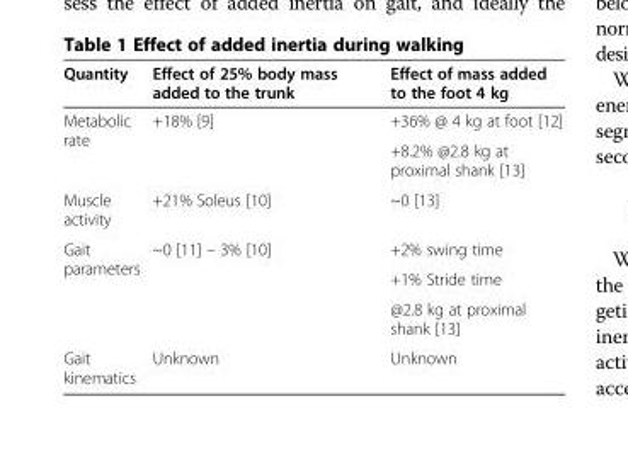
<table><thead><tr><td>Quantity</td><td>Effect of 25% body mass added to the trunk</td><td>Effect of mass added to the foot 4 kg</td></tr></thead><tbody><tr><td rowspan="2">Metabolic rate</td><td rowspan="2">+18% [9]</td><td>+36% @ 4 kg at foot [12]</td></tr><tr><td>+8.2% @2.8 kg at proximal shank [13]</td></tr><tr><td>Muscle activity</td><td>+21% Soleus [10]</td><td>~0 [13]</td></tr><tr><td rowspan="3">Gait parameters</td><td rowspan="3">~0 [11] – 3% [10]</td><td>+2% swing time</td></tr><tr><td>+1% Stride time</td></tr><tr><td>@2.8 kg at proximal shank [13]</td></tr><tr><td>Gait kinematics</td><td>Unknown</td><td>Unknown</td></tr></tbody></table>